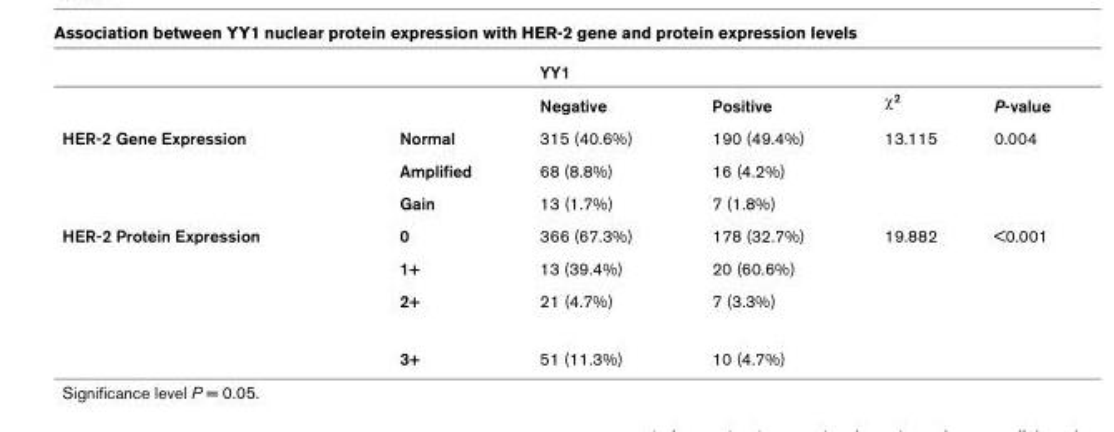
<table><thead><tr><td rowspan="2"></td><td rowspan="2"></td><td colspan="4">YY1</td></tr><tr><td>Negative</td><td>Positive</td><td>χ<sup>2</sup></td><td>P-value</td></tr></thead><tbody><tr><td rowspan="3">HER-2 Gene Expression</td><td>Normal</td><td>315 (40.6%)</td><td>190 (49.4%)</td><td>13.115</td><td>0.004</td></tr><tr><td>Amplified</td><td>68 (8.8%)</td><td>16 (4.2%)</td><td></td><td></td></tr><tr><td>Gain</td><td>13 (1.7%)</td><td>7 (1.8%)</td><td></td><td></td></tr><tr><td rowspan="4">HER-2 Protein Expression</td><td>0</td><td>366 (67.3%)</td><td>178 (32.7%)</td><td>19.882</td><td>&lt;0.001</td></tr><tr><td>1+</td><td>13 (39.4%)</td><td>20 (60.6%)</td><td></td><td></td></tr><tr><td>2+</td><td>21 (4.7%)</td><td>7 (3.3%)</td><td></td><td></td></tr><tr><td>3+</td><td>51 (11.3%)</td><td>10 (4.7%)</td><td></td><td></td></tr></tbody></table>